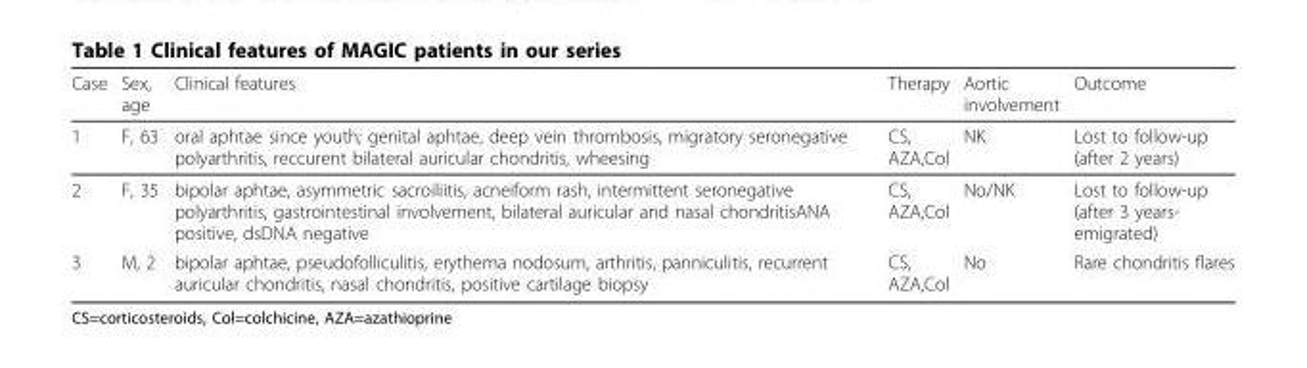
<table><thead><tr><td>Case</td><td>Sex, age</td><td>Clinical features</td><td>Therapy</td><td>Aortic involvement</td><td>Outcome</td></tr></thead><tbody><tr><td>1</td><td>F, 63</td><td>oral aphtae since youth; genital aphtae, deep vein thrombosis, migratory seronegative polyarthritis, reccurent bilateral auricular chondritis, wheesing</td><td>CS, AZA,Col</td><td>NK</td><td>Lost to follow-up (after 2 years)</td></tr><tr><td>2</td><td>F, 35</td><td>bipolar aphtae, asymmetric sacroiliitis, acneiform rash, intermittent seronegative polyarthritis, gastrointestinal involvement, bilateral auricular and nasal chondritisANA positive, dsDNA negative</td><td>CS, AZA,Col</td><td>No/NK</td><td>Lost to follow-up (after 3 years- emigrated)</td></tr><tr><td>3</td><td>M, 2</td><td>bipolar aphtae, pseudofolliculitis, erythema nodosum, arthritis, panniculitis, recurrent auricular chondritis, nasal chondritis, positive cartilage biopsy</td><td>CS, AZA,Col</td><td>No</td><td>Rare chondritis flares</td></tr></tbody></table>